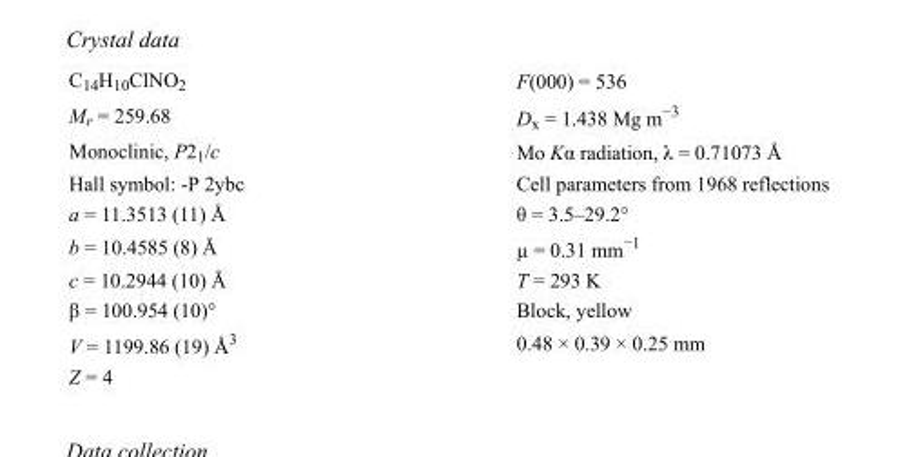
<table><tbody><tr><td>C<sub>14</sub>H<sub>10</sub>ClNO<sub>2</sub></td><td>F(000) = 536</td></tr><tr><td>M<sub>r</sub> = 259.68</td><td>D<sub>x</sub> = 1.438 Mg m<sup>−3</sup></td></tr><tr><td>Monoclinic, P2<sub>1</sub>/c</td><td>Mo Kα radiation, λ = 0.71073 Å</td></tr><tr><td>Hall symbol: -P 2ybc</td><td>Cell parameters from 1968 reflections</td></tr><tr><td>a = 11.3513 (11) Å</td><td>θ = 3.5–29.2°</td></tr><tr><td>b = 10.4585 (8) Å</td><td>µ = 0.31 mm<sup>−1</sup></td></tr><tr><td>c = 10.2944 (10) Å</td><td>T = 293 K</td></tr><tr><td>β = 100.954 (10)°</td><td>Block, yellow</td></tr><tr><td>V = 1199.86 (19) Å<sup>3</sup></td><td>0.48 × 0.39 × 0.25 mm</td></tr><tr><td>Z = 4</td><td></td></tr></tbody></table>